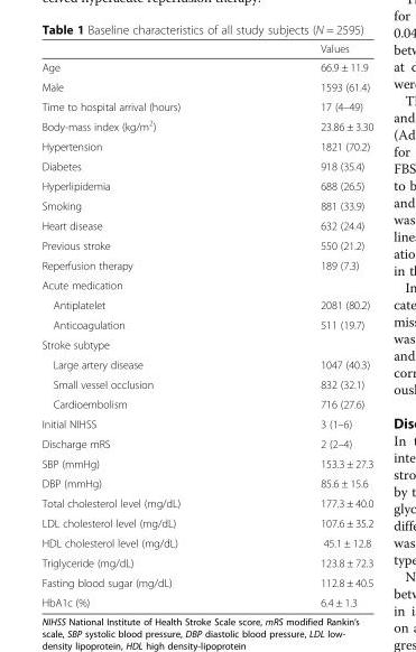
<table><thead><tr><td></td><td>Values</td></tr></thead><tbody><tr><td>Age</td><td>66.9 ± 11.9</td></tr><tr><td>Male</td><td>1593 (61.4)</td></tr><tr><td>Time to hospital arrival (hours)</td><td>17 (4–49)</td></tr><tr><td>Body-mass index (kg/m<sup>2</sup>)</td><td>23.86 ± 3.30</td></tr><tr><td>Hypertension</td><td>1821 (70.2)</td></tr><tr><td>Diabetes</td><td>918 (35.4)</td></tr><tr><td>Hyperlipidemia</td><td>688 (26.5)</td></tr><tr><td>Smoking</td><td>881 (33.9)</td></tr><tr><td>Heart disease</td><td>632 (24.4)</td></tr><tr><td>Previous stroke</td><td>550 (21.2)</td></tr><tr><td>Reperfusion therapy</td><td>189 (7.3)</td></tr><tr><td colspan="2">Acute medication</td></tr><tr><td>Antiplatelet</td><td>2081 (80.2)</td></tr><tr><td>Anticoagulation</td><td>511 (19.7)</td></tr><tr><td colspan="2">Stroke subtype</td></tr><tr><td>Large artery disease</td><td>1047 (40.3)</td></tr><tr><td>Small vessel occlusion</td><td>832 (32.1)</td></tr><tr><td>Cardioembolism</td><td>716 (27.6)</td></tr><tr><td>Initial NIHSS</td><td>3 (1–6)</td></tr><tr><td>Discharge mRS</td><td>2 (2–4)</td></tr><tr><td>SBP (mmHg)</td><td>153.3 ± 27.3</td></tr><tr><td>DBP (mmHg)</td><td>85.6 ± 15.6</td></tr><tr><td>Total cholesterol level (mg/dL)</td><td>177.3 ± 40.0</td></tr><tr><td>LDL cholesterol level (mg/dL)</td><td>107.6 ± 35.2</td></tr><tr><td>HDL cholesterol level (mg/dL)</td><td>45.1 ± 12.8</td></tr><tr><td>Triglyceride (mg/dL)</td><td>123.8 ± 72.3</td></tr><tr><td>Fasting blood sugar (mg/dL)</td><td>112.8 ± 40.5</td></tr><tr><td>HbA1c (%)</td><td>6.4 ± 1.3</td></tr></tbody></table>